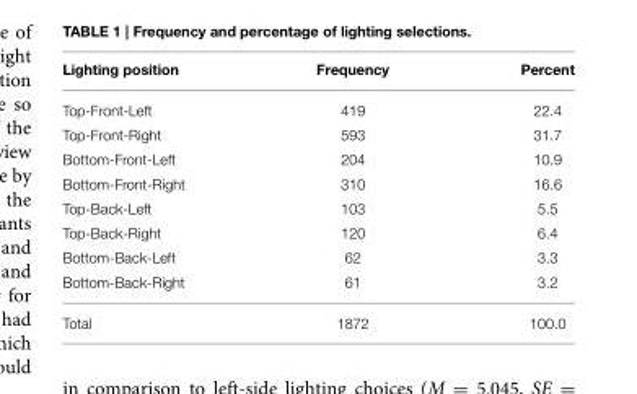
<table><thead><tr><td>Lighting position</td><td>Frequency</td><td>Percent</td></tr></thead><tbody><tr><td>Top-Front-Left</td><td>419</td><td>22.4</td></tr><tr><td>Top-Front-Right</td><td>593</td><td>31.7</td></tr><tr><td>Bottom-Front-Left</td><td>204</td><td>10.9</td></tr><tr><td>Bottom-Front-Right</td><td>310</td><td>16.6</td></tr><tr><td>Top-Back-Left</td><td>103</td><td>5.5</td></tr><tr><td>Top-Back-Right</td><td>120</td><td>6.4</td></tr><tr><td>Bottom-Back-Left</td><td>62</td><td>3.3</td></tr><tr><td>Bottom-Back-Right</td><td>61</td><td>3.2</td></tr><tr><td>Total</td><td>1872</td><td>100.0</td></tr></tbody></table>